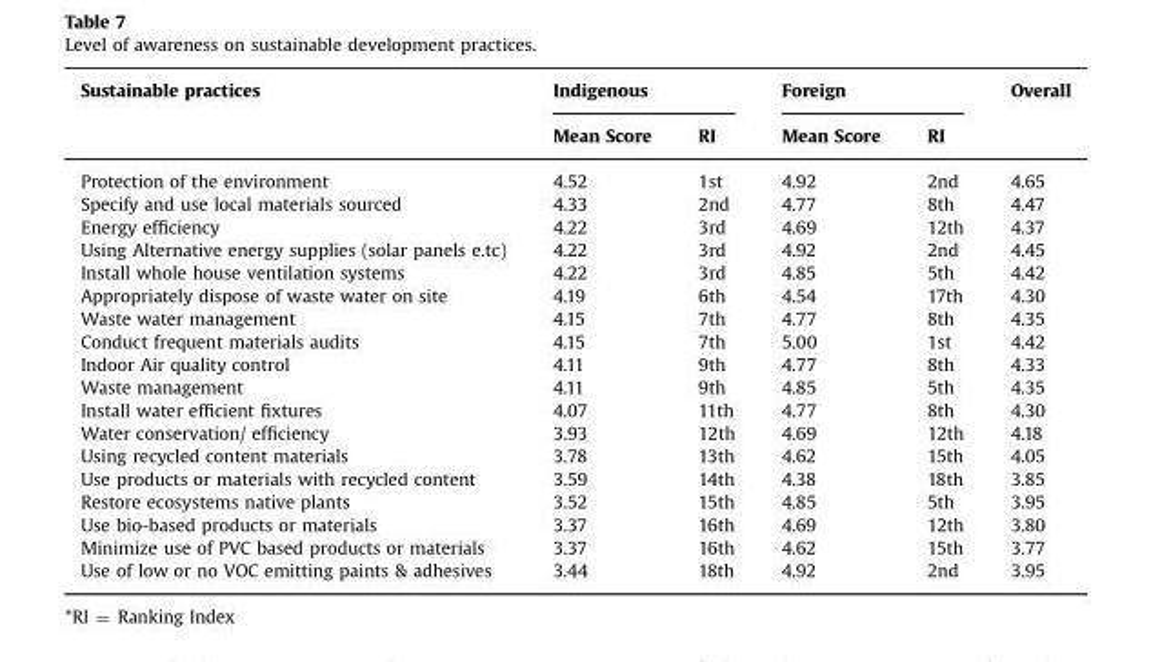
<table><thead><tr><td rowspan="2">Sustainable practices</td><td colspan="2">Indigenous</td><td colspan="2">Foreign</td><td rowspan="2">Overall</td></tr><tr><td>Mean Score</td><td>RI</td><td>Mean Score</td><td>RI</td></tr></thead><tbody><tr><td>Protection of the environment</td><td>4.52</td><td>1st</td><td>4.92</td><td>2nd</td><td>4.65</td></tr><tr><td>Specify and use local materials sourced</td><td>4.33</td><td>2nd</td><td>4.77</td><td>8th</td><td>4.47</td></tr><tr><td>Energy efficiency</td><td>4.22</td><td>3rd</td><td>4.69</td><td>12th</td><td>4.37</td></tr><tr><td>Using Alternative energy supplies (solar panels e.tc)</td><td>4.22</td><td>3rd</td><td>4.92</td><td>2nd</td><td>4.45</td></tr><tr><td>Install whole house ventilation systems</td><td>4.22</td><td>3rd</td><td>4.85</td><td>5th</td><td>4.42</td></tr><tr><td>Appropriately dispose of waste water on site</td><td>4.19</td><td>6th</td><td>4.54</td><td>17th</td><td>4.30</td></tr><tr><td>Waste water management</td><td>4.15</td><td>7th</td><td>4.77</td><td>8th</td><td>4.35</td></tr><tr><td>Conduct frequent materials audits</td><td>4.15</td><td>7th</td><td>5.00</td><td>1st</td><td>4.42</td></tr><tr><td>Indoor Air quality control</td><td>4.11</td><td>9th</td><td>4.77</td><td>8th</td><td>4.33</td></tr><tr><td>Waste management</td><td>4.11</td><td>9th</td><td>4.85</td><td>5th</td><td>4.35</td></tr><tr><td>Install water efficient fixtures</td><td>4.07</td><td>11th</td><td>4.77</td><td>8th</td><td>4.30</td></tr><tr><td>Water conservation/ efficiency</td><td>3.93</td><td>12th</td><td>4.69</td><td>12th</td><td>4.18</td></tr><tr><td>Using recycled content materials</td><td>3.78</td><td>13th</td><td>4.62</td><td>15th</td><td>4.05</td></tr><tr><td>Use products or materials with recycled content</td><td>3.59</td><td>14th</td><td>4.38</td><td>18th</td><td>3.85</td></tr><tr><td>Restore ecosystems native plants</td><td>3.52</td><td>15th</td><td>4.85</td><td>5th</td><td>3.95</td></tr><tr><td>Use bio-based products or materials</td><td>3.37</td><td>16th</td><td>4.69</td><td>12th</td><td>3.80</td></tr><tr><td>Minimize use of PVC based products or materials</td><td>3.37</td><td>16th</td><td>4.62</td><td>15th</td><td>3.77</td></tr><tr><td>Use of low or no VOC emitting paints &amp; adhesives</td><td>3.44</td><td>18th</td><td>4.92</td><td>2nd</td><td>3.95</td></tr></tbody></table>